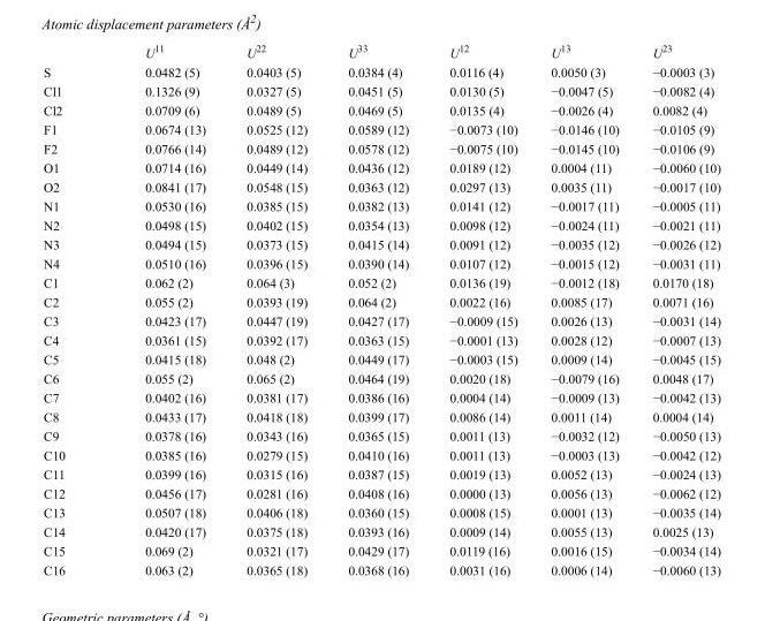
<table><thead><tr><td></td><td>U<sup>11</sup></td><td>U<sup>22</sup></td><td>U<sup>33</sup></td><td>U<sup>12</sup></td><td>U<sup>13</sup></td><td>U<sup>23</sup></td></tr></thead><tbody><tr><td>S</td><td>0.0482 (5)</td><td>0.0403 (5)</td><td>0.0384 (4)</td><td>0.0116 (4)</td><td>0.0050 (3)</td><td>−0.0003 (3)</td></tr><tr><td>Cl1</td><td>0.1326 (9)</td><td>0.0327 (5)</td><td>0.0451 (5)</td><td>0.0130 (5)</td><td>−0.0047 (5)</td><td>−0.0082 (4)</td></tr><tr><td>Cl2</td><td>0.0709 (6)</td><td>0.0489 (5)</td><td>0.0469 (5)</td><td>0.0135 (4)</td><td>−0.0026 (4)</td><td>0.0082 (4)</td></tr><tr><td>F1</td><td>0.0674 (13)</td><td>0.0525 (12)</td><td>0.0589 (12)</td><td>−0.0073 (10)</td><td>−0.0146 (10)</td><td>−0.0105 (9)</td></tr><tr><td>F2</td><td>0.0766 (14)</td><td>0.0489 (12)</td><td>0.0578 (12)</td><td>−0.0075 (10)</td><td>−0.0145 (10)</td><td>−0.0106 (9)</td></tr><tr><td>O1</td><td>0.0714 (16)</td><td>0.0449 (14)</td><td>0.0436 (12)</td><td>0.0189 (12)</td><td>0.0004 (11)</td><td>−0.0060 (10)</td></tr><tr><td>O2</td><td>0.0841 (17)</td><td>0.0548 (15)</td><td>0.0363 (12)</td><td>0.0297 (13)</td><td>0.0035 (11)</td><td>−0.0017 (10)</td></tr><tr><td>N1</td><td>0.0530 (16)</td><td>0.0385 (15)</td><td>0.0382 (13)</td><td>0.0141 (12)</td><td>−0.0017 (11)</td><td>−0.0005 (11)</td></tr><tr><td>N2</td><td>0.0498 (15)</td><td>0.0402 (15)</td><td>0.0354 (13)</td><td>0.0098 (12)</td><td>−0.0024 (11)</td><td>−0.0021 (11)</td></tr><tr><td>N3</td><td>0.0494 (15)</td><td>0.0373 (15)</td><td>0.0415 (14)</td><td>0.0091 (12)</td><td>−0.0035 (12)</td><td>−0.0026 (12)</td></tr><tr><td>N4</td><td>0.0510 (16)</td><td>0.0396 (15)</td><td>0.0390 (14)</td><td>0.0107 (12)</td><td>−0.0015 (12)</td><td>−0.0031 (11)</td></tr><tr><td>C1</td><td>0.062 (2)</td><td>0.064 (3)</td><td>0.052 (2)</td><td>0.0136 (19)</td><td>−0.0012 (18)</td><td>0.0170 (18)</td></tr><tr><td>C2</td><td>0.055 (2)</td><td>0.0393 (19)</td><td>0.064 (2)</td><td>0.0022 (16)</td><td>0.0085 (17)</td><td>0.0071 (16)</td></tr><tr><td>C3</td><td>0.0423 (17)</td><td>0.0447 (19)</td><td>0.0427 (17)</td><td>−0.0009 (15)</td><td>0.0026 (13)</td><td>−0.0031 (14)</td></tr><tr><td>C4</td><td>0.0361 (15)</td><td>0.0392 (17)</td><td>0.0363 (15)</td><td>−0.0001 (13)</td><td>0.0028 (12)</td><td>−0.0007 (13)</td></tr><tr><td>C5</td><td>0.0415 (18)</td><td>0.048 (2)</td><td>0.0449 (17)</td><td>−0.0003 (15)</td><td>0.0009 (14)</td><td>−0.0045 (15)</td></tr><tr><td>C6</td><td>0.055 (2)</td><td>0.065 (2)</td><td>0.0464 (19)</td><td>0.0020 (18)</td><td>−0.0079 (16)</td><td>0.0048 (17)</td></tr><tr><td>C7</td><td>0.0402 (16)</td><td>0.0381 (17)</td><td>0.0386 (16)</td><td>0.0004 (14)</td><td>−0.0009 (13)</td><td>−0.0042 (13)</td></tr><tr><td>C8</td><td>0.0433 (17)</td><td>0.0418 (18)</td><td>0.0399 (17)</td><td>0.0086 (14)</td><td>0.0011 (14)</td><td>0.0004 (14)</td></tr><tr><td>C9</td><td>0.0378 (16)</td><td>0.0343 (16)</td><td>0.0365 (15)</td><td>0.0011 (13)</td><td>−0.0032 (12)</td><td>−0.0050 (13)</td></tr><tr><td>C10</td><td>0.0385 (16)</td><td>0.0279 (15)</td><td>0.0410 (16)</td><td>0.0011 (13)</td><td>−0.0003 (13)</td><td>−0.0042 (12)</td></tr><tr><td>C11</td><td>0.0399 (16)</td><td>0.0315 (16)</td><td>0.0387 (15)</td><td>0.0019 (13)</td><td>0.0052 (13)</td><td>−0.0024 (13)</td></tr><tr><td>C12</td><td>0.0456 (17)</td><td>0.0281 (16)</td><td>0.0408 (16)</td><td>0.0000 (13)</td><td>0.0056 (13)</td><td>−0.0062 (12)</td></tr><tr><td>C13</td><td>0.0507 (18)</td><td>0.0406 (18)</td><td>0.0360 (15)</td><td>0.0008 (15)</td><td>0.0001 (13)</td><td>−0.0035 (14)</td></tr><tr><td>C14</td><td>0.0420 (17)</td><td>0.0375 (18)</td><td>0.0393 (16)</td><td>0.0009 (14)</td><td>0.0055 (13)</td><td>0.0025 (13)</td></tr><tr><td>C15</td><td>0.069 (2)</td><td>0.0321 (17)</td><td>0.0429 (17)</td><td>0.0119 (16)</td><td>0.0016 (15)</td><td>−0.0034 (14)</td></tr><tr><td>C16</td><td>0.063 (2)</td><td>0.0365 (18)</td><td>0.0368 (16)</td><td>0.0031 (16)</td><td>0.0006 (14)</td><td>−0.0060 (13)</td></tr></tbody></table>